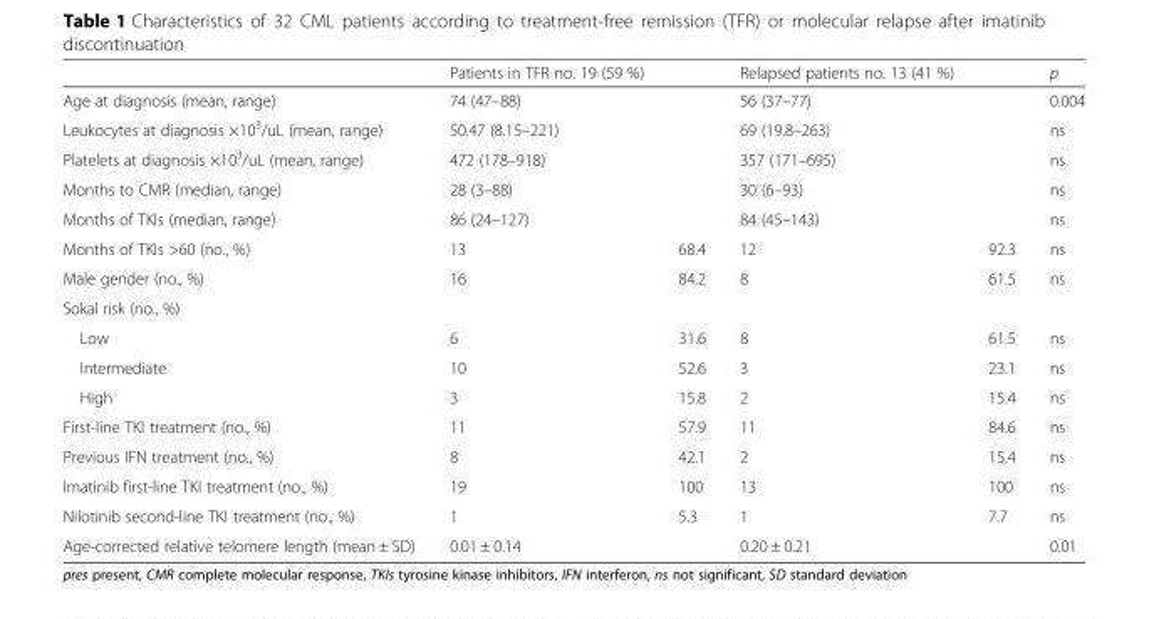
<table><thead><tr><td></td><td>Patients in TFR no. 19 (59 %)</td><td></td><td>Relapsed patients no. 13 (41 %)</td><td></td><td>p</td></tr></thead><tbody><tr><td>Age at diagnosis (mean, range)</td><td>74 (47–88)</td><td></td><td>56 (37–77)</td><td></td><td>0.004</td></tr><tr><td>Leukocytes at diagnosis ×10<sup>3</sup>/uL (mean, range)</td><td>50.47 (8.15–221)</td><td></td><td>69 (19.8–263)</td><td></td><td>ns</td></tr><tr><td>Platelets at diagnosis ×10<sup>3</sup>/uL (mean, range)</td><td>472 (178–918)</td><td></td><td>357 (171–695)</td><td></td><td>ns</td></tr><tr><td>Months to CMR (median, range)</td><td>28 (3–88)</td><td></td><td>30 (6–93)</td><td></td><td>ns</td></tr><tr><td>Months of TKIs (median, range)</td><td>86 (24–127)</td><td></td><td>84 (45–143)</td><td></td><td>ns</td></tr><tr><td>Months of TKIs &gt;60 (no., %)</td><td>13</td><td>68.4</td><td>12</td><td>92.3</td><td>ns</td></tr><tr><td>Male gender (no., %)</td><td>16</td><td>84.2</td><td>8</td><td>61.5</td><td>ns</td></tr><tr><td colspan="6">Sokal risk (no., %)</td></tr><tr><td>Low</td><td>6</td><td>31.6</td><td>8</td><td>61.5</td><td>ns</td></tr><tr><td>Intermediate</td><td>10</td><td>52.6</td><td>3</td><td>23.1</td><td>ns</td></tr><tr><td>High</td><td>3</td><td>15.8</td><td>2</td><td>15.4</td><td>ns</td></tr><tr><td>First-line TKI treatment (no., %)</td><td>11</td><td>57.9</td><td>11</td><td>84.6</td><td>ns</td></tr><tr><td>Previous IFN treatment (no., %)</td><td>8</td><td>42.1</td><td>2</td><td>15.4</td><td>ns</td></tr><tr><td>Imatinib first-line TKI treatment (no., %)</td><td>19</td><td>100</td><td>13</td><td>100</td><td>ns</td></tr><tr><td>Nilotinib second-line TKI treatment (no., %)</td><td>1</td><td>5.3</td><td>1</td><td>7.7</td><td>ns</td></tr><tr><td>Age-corrected relative telomere length (mean ± SD)</td><td>0.01 ± 0.14</td><td></td><td>0.20 ± 0.21</td><td></td><td>0.01</td></tr></tbody></table>